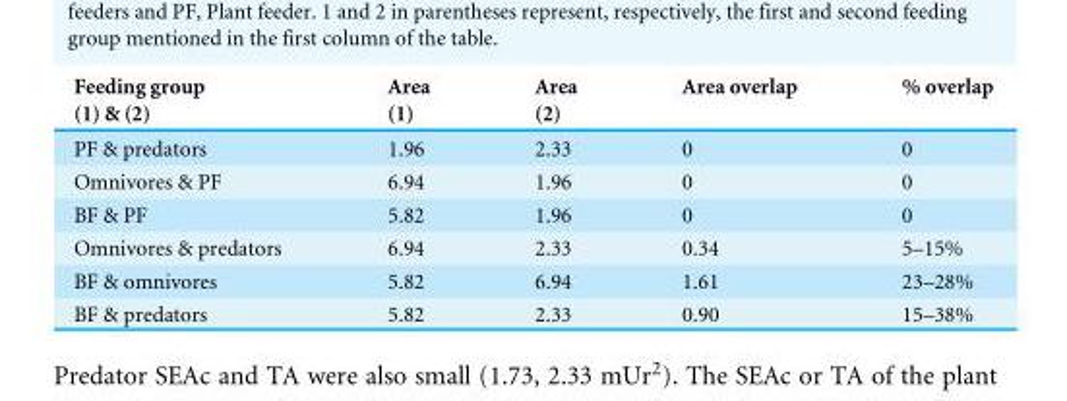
<table><thead><tr><td rowspan="2">Feeding group (1) &amp; (2)</td><td rowspan="2">Area (1)</td><td rowspan="2">Area (2)</td><td rowspan="2">Area overlap</td><td rowspan="2">% overlap</td></tr><tr></tr></thead><tbody><tr><td>PF &amp; predators</td><td>1.96</td><td>2.33</td><td>0</td><td>0</td></tr><tr><td>Omnivores &amp; PF</td><td>6.94</td><td>1.96</td><td>0</td><td>0</td></tr><tr><td>BF &amp; PF</td><td>5.82</td><td>1.96</td><td>0</td><td>0</td></tr><tr><td>Omnivores &amp; predators</td><td>6.94</td><td>2.33</td><td>0.34</td><td>5–15%</td></tr><tr><td>BF &amp; omnivores</td><td>5.82</td><td>6.94</td><td>1.61</td><td>23–28%</td></tr><tr><td>BF &amp; predators</td><td>5.82</td><td>2.33</td><td>0.90</td><td>15–38%</td></tr></tbody></table>